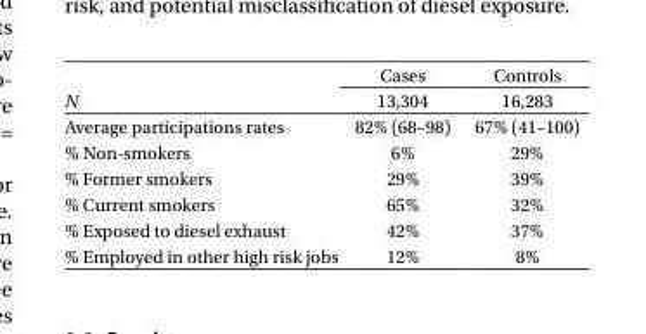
<table><thead><tr><td rowspan="2">N</td><td rowspan="2">Cases 13,304</td><td rowspan="2">Controls 16,283</td></tr><tr></tr></thead><tbody><tr><td>Average participations rates</td><td>82% (68–98)</td><td>67% (41–100)</td></tr><tr><td>% Non-smokers</td><td>6%</td><td>29%</td></tr><tr><td>% Former smokers</td><td>29%</td><td>39%</td></tr><tr><td>% Current smokers</td><td>65%</td><td>32%</td></tr><tr><td>% Exposed to diesel exhaust</td><td>42%</td><td>37%</td></tr><tr><td>% Employed in other high risk jobs</td><td>12%</td><td>8%</td></tr></tbody></table>